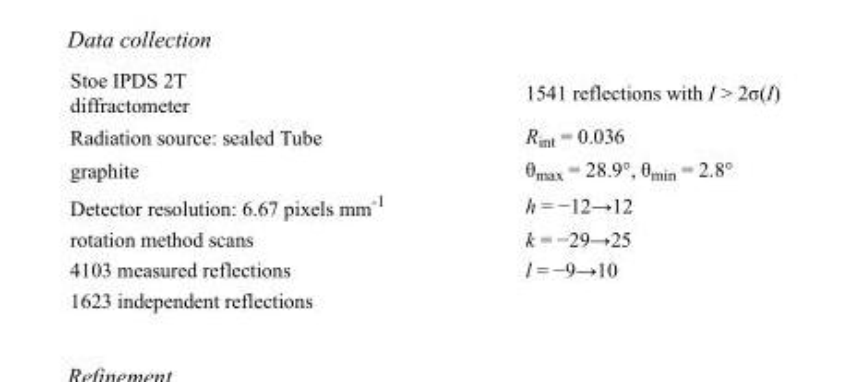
<table><tbody><tr><td>Stoe IPDS 2T diffractometer</td><td>1541 reflections with I &gt; 2σ(I)</td></tr><tr><td>Radiation source: sealed Tube</td><td>R<sub>int</sub> = 0.036</td></tr><tr><td>graphite</td><td>θ<sub>max</sub> = 28.9°, θ<sub>min</sub> = 2.8°</td></tr><tr><td>Detector resolution: 6.67 pixels mm<sup>-1</sup></td><td>h = −12→12</td></tr><tr><td>rotation method scans</td><td>k = −29→25</td></tr><tr><td>4103 measured reflections</td><td>l = −9→10</td></tr><tr><td>1623 independent reflections</td><td></td></tr></tbody></table>